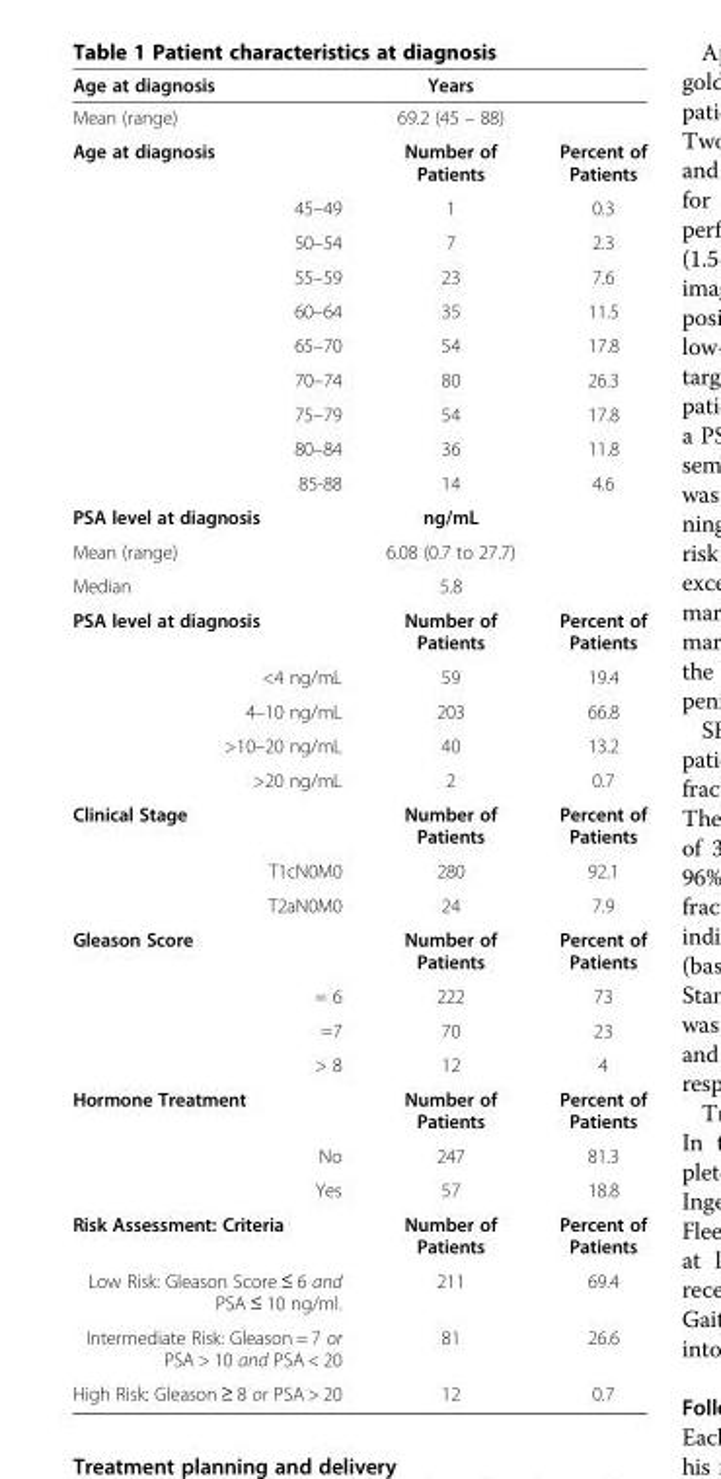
<table><thead><tr><td>Age at diagnosis</td><td>Years</td><td></td></tr></thead><tbody><tr><td>Mean (range)</td><td>69.2 (45 – 88)</td><td></td></tr><tr><td>Age at diagnosis</td><td>Number of Patients</td><td>Percent of Patients</td></tr><tr><td>45–49</td><td>1</td><td>0.3</td></tr><tr><td>50–54</td><td>7</td><td>2.3</td></tr><tr><td>55–59</td><td>23</td><td>7.6</td></tr><tr><td>60–64</td><td>35</td><td>11.5</td></tr><tr><td>65–70</td><td>54</td><td>17.8</td></tr><tr><td>70–74</td><td>80</td><td>26.3</td></tr><tr><td>75–79</td><td>54</td><td>17.8</td></tr><tr><td>80–84</td><td>36</td><td>11.8</td></tr><tr><td>85-88</td><td>14</td><td>4.6</td></tr><tr><td>PSA level at diagnosis</td><td>ng/mL</td><td></td></tr><tr><td>Mean (range)</td><td>6.08 (0.7 to 27.7)</td><td></td></tr><tr><td>Median</td><td>5.8</td><td></td></tr><tr><td>PSA level at diagnosis</td><td>Number of Patients</td><td>Percent of Patients</td></tr><tr><td>&lt;4 ng/mL</td><td>59</td><td>19.4</td></tr><tr><td>4–10 ng/mL</td><td>203</td><td>66.8</td></tr><tr><td>&gt;10–20 ng/mL</td><td>40</td><td>13.2</td></tr><tr><td>&gt;20 ng/mL</td><td>2</td><td>0.7</td></tr><tr><td>Clinical Stage</td><td>Number of Patients</td><td>Percent of Patients</td></tr><tr><td>T1cN0M0</td><td>280</td><td>92.1</td></tr><tr><td>T2aN0M0</td><td>24</td><td>7.9</td></tr><tr><td>Gleason Score</td><td>Number of Patients</td><td>Percent of Patients</td></tr><tr><td>= 6</td><td>222</td><td>73</td></tr><tr><td>=7</td><td>70</td><td>23</td></tr><tr><td>&gt; 8</td><td>12</td><td>4</td></tr><tr><td>Hormone Treatment</td><td>Number of Patients</td><td>Percent of Patients</td></tr><tr><td>No</td><td>247</td><td>81.3</td></tr><tr><td>Yes</td><td>57</td><td>18.8</td></tr><tr><td>Risk Assessment: Criteria</td><td>Number of Patients</td><td>Percent of Patients</td></tr><tr><td>Low Risk: Gleason Score ≤ 6 and PSA ≤ 10 ng/ml.</td><td>211</td><td>69.4</td></tr><tr><td>Intermediate Risk: Gleason = 7 or PSA &gt; 10 and PSA &lt; 20</td><td>81</td><td>26.6</td></tr><tr><td>High Risk: Gleason ≥ 8 or PSA &gt; 20</td><td>12</td><td>0.7</td></tr></tbody></table>